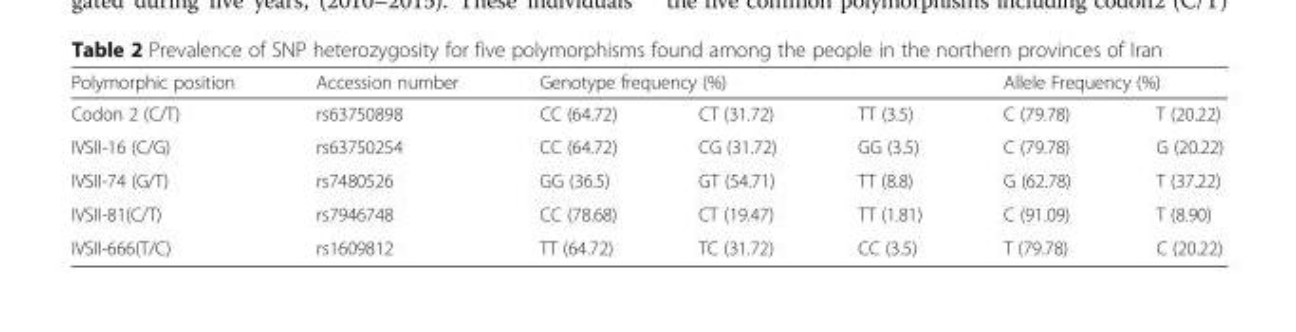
<table><thead><tr><td rowspan="2">Polymorphic position Codon 2 (C/T)</td><td rowspan="2">Accession number rs63750898</td><td colspan="3">Genotype frequency (%)</td><td colspan="2">Allele Frequency (%)</td></tr><tr><td>CC (64.72)</td><td>CT (31.72)</td><td>TT (3.5)</td><td>C (79.78)</td><td>T (20.22)</td></tr></thead><tbody><tr><td>IVSII-16 (C/G)</td><td>rs63750254</td><td>CC (64.72)</td><td>CG (31.72)</td><td>GG (3.5)</td><td>C (79.78)</td><td>G (20.22)</td></tr><tr><td>IVSII-74 (G/T)</td><td>rs7480526</td><td>GG (36.5)</td><td>GT (54.71)</td><td>TT (8.8)</td><td>G (62.78)</td><td>T (37.22)</td></tr><tr><td>IVSII-81(C/T)</td><td>rs7946748</td><td>CC (78.68)</td><td>CT (19.47)</td><td>TT (1.81)</td><td>C (91.09)</td><td>T (8.90)</td></tr><tr><td>IVSII-666(T/C)</td><td>rs1609812</td><td>TT (64.72)</td><td>TC (31.72)</td><td>CC (3.5)</td><td>T (79.78)</td><td>C (20.22)</td></tr></tbody></table>